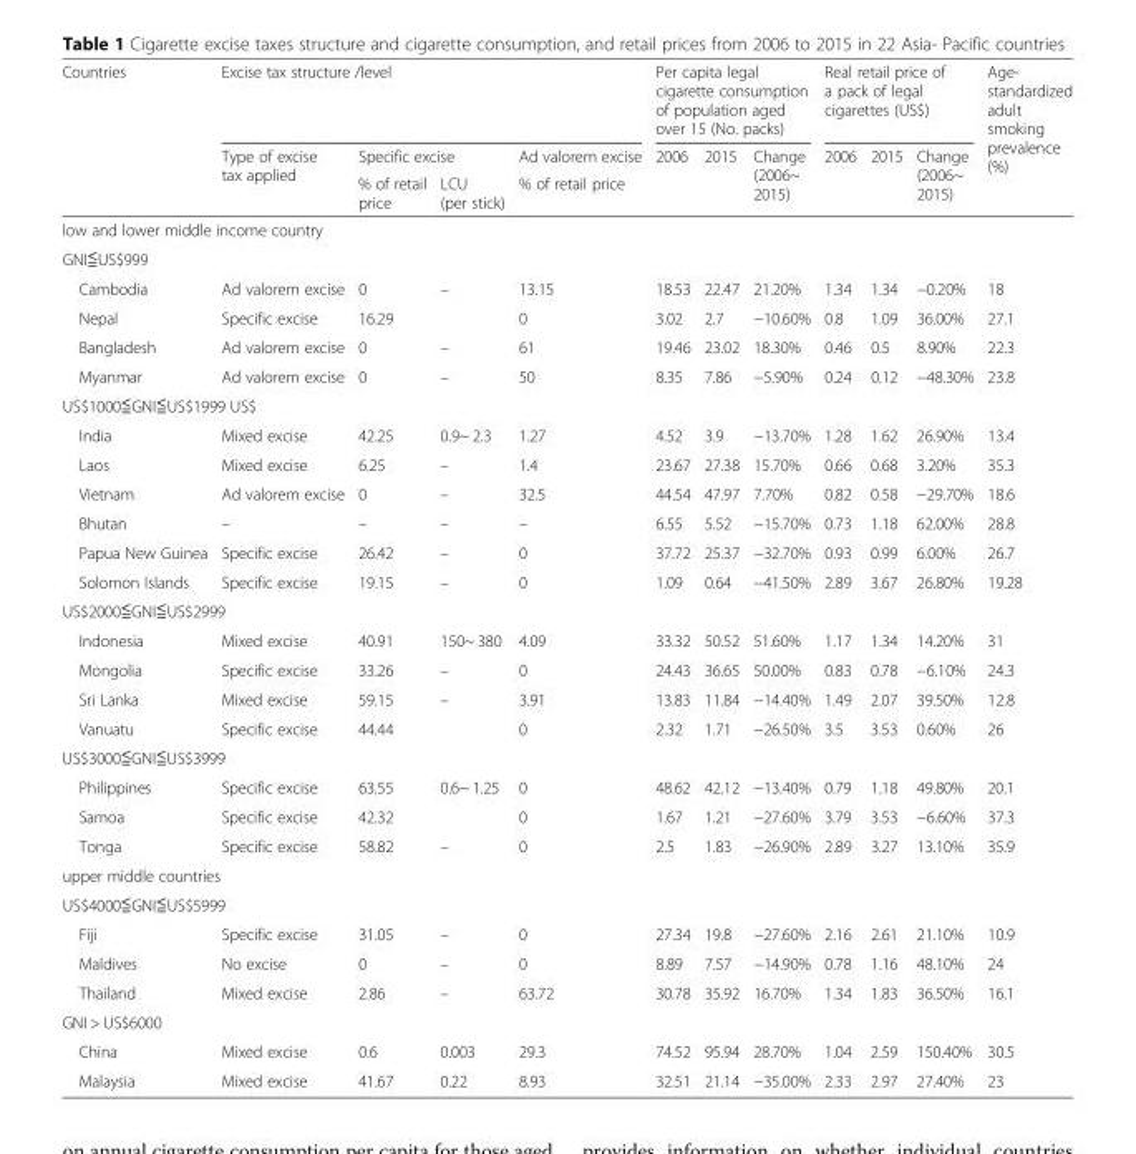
<table><thead><tr><td rowspan="3">Countries</td><td colspan="4">Excise tax structure /level</td><td colspan="3">Per capita legal cigarette consumption of population aged over 15 (No. packs)</td><td colspan="3">Real retail price of a pack of legal cigarettes (US$)</td><td rowspan="3">Age- standardized adult smoking prevalence (%)</td></tr><tr><td rowspan="2">Type of excise tax applied</td><td colspan="2">Specific excise</td><td rowspan="2">Ad valorem excise % of retail price</td><td rowspan="2">2006</td><td rowspan="2">2015</td><td rowspan="2">Change (2006~ 2015)</td><td rowspan="2">2006</td><td rowspan="2">2015</td><td rowspan="2">Change (2006~ 2015)</td></tr><tr><td>% of retail price</td><td>LCU (per stick)</td></tr></thead><tbody><tr><td colspan="12">low and lower middle income country</td></tr><tr><td colspan="12">GNI≦US$999</td></tr><tr><td>Cambodia</td><td>Ad valorem excise</td><td>0</td><td>–</td><td>13.15</td><td>18.53</td><td>22.47</td><td>21.20%</td><td>1.34</td><td>1.34</td><td>−0.20%</td><td>18</td></tr><tr><td>Nepal</td><td>Specific excise</td><td>16.29</td><td></td><td>0</td><td>3.02</td><td>2.7</td><td>−10.60%</td><td>0.8</td><td>1.09</td><td>36.00%</td><td>27.1</td></tr><tr><td>Bangladesh</td><td>Ad valorem excise</td><td>0</td><td>–</td><td>61</td><td>19.46</td><td>23.02</td><td>18.30%</td><td>0.46</td><td>0.5</td><td>8.90%</td><td>22.3</td></tr><tr><td>Myanmar</td><td>Ad valorem excise</td><td>0</td><td>–</td><td>50</td><td>8.35</td><td>7.86</td><td>−5.90%</td><td>0.24</td><td>0.12</td><td>−48.30%</td><td>23.8</td></tr><tr><td colspan="12">US$1000≦GNI≦US$1999 US$</td></tr><tr><td>India</td><td>Mixed excise</td><td>42.25</td><td>0.9~ 2.3</td><td>1.27</td><td>4.52</td><td>3.9</td><td>−13.70%</td><td>1.28</td><td>1.62</td><td>26.90%</td><td>13.4</td></tr><tr><td>Laos</td><td>Mixed excise</td><td>6.25</td><td>–</td><td>1.4</td><td>23.67</td><td>27.38</td><td>15.70%</td><td>0.66</td><td>0.68</td><td>3.20%</td><td>35.3</td></tr><tr><td>Vietnam</td><td>Ad valorem excise</td><td>0</td><td>–</td><td>32.5</td><td>44.54</td><td>47.97</td><td>7.70%</td><td>0.82</td><td>0.58</td><td>−29.70%</td><td>18.6</td></tr><tr><td>Bhutan</td><td>–</td><td>–</td><td>–</td><td>–</td><td>6.55</td><td>5.52</td><td>−15.70%</td><td>0.73</td><td>1.18</td><td>62.00%</td><td>28.8</td></tr><tr><td>Papua New Guinea</td><td>Specific excise</td><td>26.42</td><td>–</td><td>0</td><td>37.72</td><td>25.37</td><td>−32.70%</td><td>0.93</td><td>0.99</td><td>6.00%</td><td>26.7</td></tr><tr><td>Solomon Islands</td><td>Specific excise</td><td>19.15</td><td>–</td><td>0</td><td>1.09</td><td>0.64</td><td>−41.50%</td><td>2.89</td><td>3.67</td><td>26.80%</td><td>19.28</td></tr><tr><td colspan="12">US$2000≦GNI≦US$2999</td></tr><tr><td>Indonesia</td><td>Mixed excise</td><td>40.91</td><td>150~ 380</td><td>4.09</td><td>33.32</td><td>50.52</td><td>51.60%</td><td>1.17</td><td>1.34</td><td>14.20%</td><td>31</td></tr><tr><td>Mongolia</td><td>Specific excise</td><td>33.26</td><td>–</td><td>0</td><td>24.43</td><td>36.65</td><td>50.00%</td><td>0.83</td><td>0.78</td><td>−6.10%</td><td>24.3</td></tr><tr><td>Sri Lanka</td><td>Mixed excise</td><td>59.15</td><td>–</td><td>3.91</td><td>13.83</td><td>11.84</td><td>−14.40%</td><td>1.49</td><td>2.07</td><td>39.50%</td><td>12.8</td></tr><tr><td>Vanuatu</td><td>Specific excise</td><td>44.44</td><td></td><td>0</td><td>2.32</td><td>1.71</td><td>−26.50%</td><td>3.5</td><td>3.53</td><td>0.60%</td><td>26</td></tr><tr><td colspan="12">US$3000≦GNI≦US$3999</td></tr><tr><td>Philippines</td><td>Specific excise</td><td>63.55</td><td>0.6~ 1.25</td><td>0</td><td>48.62</td><td>42.12</td><td>−13.40%</td><td>0.79</td><td>1.18</td><td>49.80%</td><td>20.1</td></tr><tr><td>Samoa</td><td>Specific excise</td><td>42.32</td><td></td><td>0</td><td>1.67</td><td>1.21</td><td>−27.60%</td><td>3.79</td><td>3.53</td><td>−6.60%</td><td>37.3</td></tr><tr><td>Tonga</td><td>Specific excise</td><td>58.82</td><td>–</td><td>0</td><td>2.5</td><td>1.83</td><td>−26.90%</td><td>2.89</td><td>3.27</td><td>13.10%</td><td>35.9</td></tr><tr><td colspan="12">upper middle countries</td></tr><tr><td colspan="12">US$4000≦GNI≦US$5999</td></tr><tr><td>Fiji</td><td>Specific excise</td><td>31.05</td><td>–</td><td>0</td><td>27.34</td><td>19.8</td><td>−27.60%</td><td>2.16</td><td>2.61</td><td>21.10%</td><td>10.9</td></tr><tr><td>Maldives</td><td>No excise</td><td>0</td><td>–</td><td>0</td><td>8.89</td><td>7.57</td><td>−14.90%</td><td>0.78</td><td>1.16</td><td>48.10%</td><td>24</td></tr><tr><td>Thailand</td><td>Mixed excise</td><td>2.86</td><td>–</td><td>63.72</td><td>30.78</td><td>35.92</td><td>16.70%</td><td>1.34</td><td>1.83</td><td>36.50%</td><td>16.1</td></tr><tr><td colspan="12">GNI &gt; US$6000</td></tr><tr><td>China</td><td>Mixed excise</td><td>0.6</td><td>0.003</td><td>29.3</td><td>74.52</td><td>95.94</td><td>28.70%</td><td>1.04</td><td>2.59</td><td>150.40%</td><td>30.5</td></tr><tr><td>Malaysia</td><td>Mixed excise</td><td>41.67</td><td>0.22</td><td>8.93</td><td>32.51</td><td>21.14</td><td>−35.00%</td><td>2.33</td><td>2.97</td><td>27.40%</td><td>23</td></tr></tbody></table>